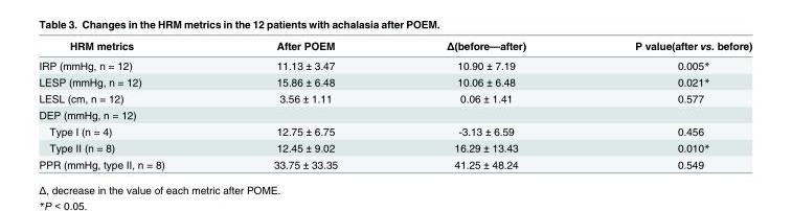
<table><thead><tr><td>HRM metrics</td><td>After POEM</td><td>Δ(before—after)</td><td>P value(after vs. before)</td></tr></thead><tbody><tr><td>IRP (mmHg, n = 12)</td><td>11.13 ± 3.47</td><td>10.90 ± 7.19</td><td>0.005*</td></tr><tr><td>LESP (mmHg, n = 12)</td><td>15.86 ± 6.48</td><td>10.06 ± 6.48</td><td>0.021*</td></tr><tr><td>LESL (cm, n = 12)</td><td>3.56 ± 1.11</td><td>0.06 ± 1.41</td><td>0.577</td></tr><tr><td colspan="4">DEP (mmHg, n = 12)</td></tr><tr><td>Type I (n = 4)</td><td>12.75 ± 6.75</td><td>-3.13 ± 6.59</td><td>0.456</td></tr><tr><td>Type II (n = 8)</td><td>12.45 ± 9.02</td><td>16.29 ± 13.43</td><td>0.010*</td></tr><tr><td>PPR (mmHg, type II, n = 8)</td><td>33.75 ± 33.35</td><td>41.25 ± 48.24</td><td>0.549</td></tr></tbody></table>